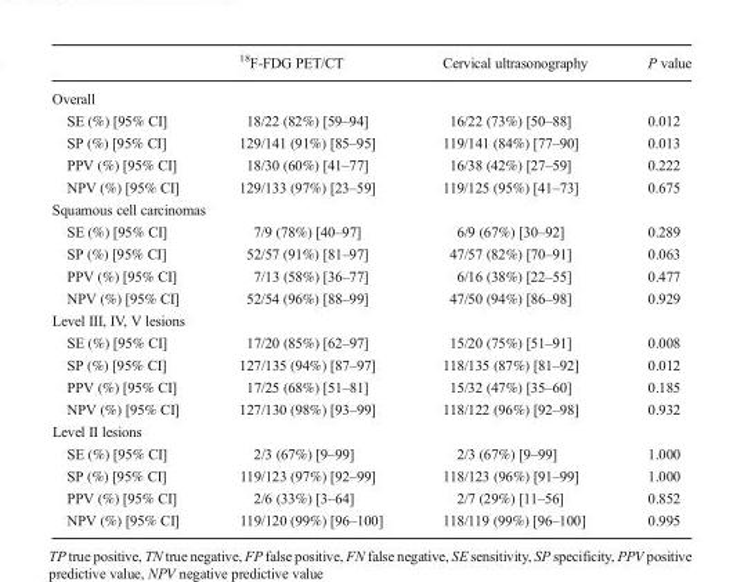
<table><thead><tr><td></td><td><sup>18</sup>F-FDG PET/CT</td><td>Cervical ultrasonography</td><td>P value</td></tr></thead><tbody><tr><td colspan="4">Overall</td></tr><tr><td>SE (%) [95% CI]</td><td>18/22 (82%) [59–94]</td><td>16/22 (73%) [50–88]</td><td>0.012</td></tr><tr><td>SP (%) [95% CI]</td><td>129/141 (91%) [85–95]</td><td>119/141 (84%) [77–90]</td><td>0.013</td></tr><tr><td>PPV (%) [95% CI]</td><td>18/30 (60%) [41–77]</td><td>16/38 (42%) [27–59]</td><td>0.222</td></tr><tr><td>NPV (%) [95% CI]</td><td>129/133 (97%) [23–59]</td><td>119/125 (95%) [41–73]</td><td>0.675</td></tr><tr><td colspan="4">Squamous cell carcinomas</td></tr><tr><td>SE (%) [95% CI]</td><td>7/9 (78%) [40–97]</td><td>6/9 (67%) [30–92]</td><td>0.289</td></tr><tr><td>SP (%) [95% CI]</td><td>52/57 (91%) [81–97]</td><td>47/57 (82%) [70–91]</td><td>0.063</td></tr><tr><td>PPV (%) [95% CI]</td><td>7/13 (58%) [36–77]</td><td>6/16 (38%) [22–55]</td><td>0.477</td></tr><tr><td>NPV (%) [95% CI]</td><td>52/54 (96%) [88–99]</td><td>47/50 (94%) [86–98]</td><td>0.929</td></tr><tr><td colspan="4">Level III, IV, V lesions</td></tr><tr><td>SE (%) [95% CI]</td><td>17/20 (85%) [62–97]</td><td>15/20 (75%) [51–91]</td><td>0.008</td></tr><tr><td>SP (%) [95% CI]</td><td>127/135 (94%) [87–97]</td><td>118/135 (87%) [81–92]</td><td>0.012</td></tr><tr><td>PPV (%) [95% CI]</td><td>17/25 (68%) [51–81]</td><td>15/32 (47%) [35–60]</td><td>0.185</td></tr><tr><td>NPV (%) [95% CI]</td><td>127/130 (98%) [93–99]</td><td>118/122 (96%) [92–98]</td><td>0.932</td></tr><tr><td colspan="4">Level II lesions</td></tr><tr><td>SE (%) [95% CI]</td><td>2/3 (67%) [9–99]</td><td>2/3 (67%) [9–99]</td><td>1.000</td></tr><tr><td>SP (%) [95% CI]</td><td>119/123 (97%) [92–99]</td><td>118/123 (96%) [91–99]</td><td>1.000</td></tr><tr><td>PPV (%) [95% CI]</td><td>2/6 (33%) [3–64]</td><td>2/7 (29%) [11–56]</td><td>0.852</td></tr><tr><td>NPV (%) [95% CI]</td><td>119/120 (99%) [96–100]</td><td>118/119 (99%) [96–100]</td><td>0.995</td></tr></tbody></table>